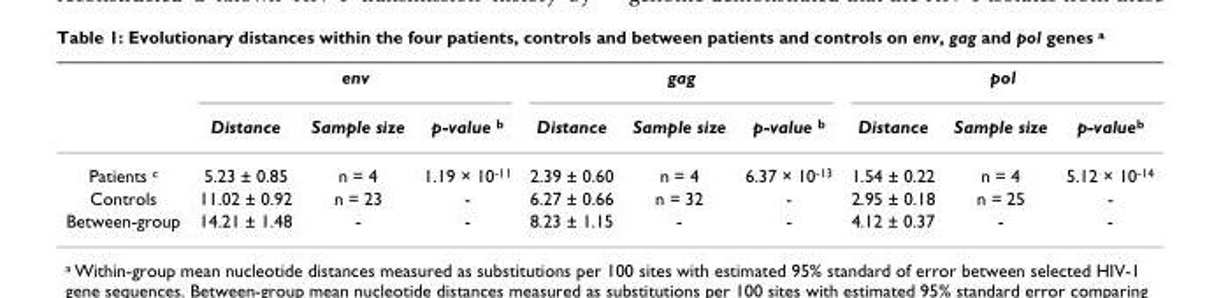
<table><thead><tr><td rowspan="2"></td><td colspan="3">env</td><td colspan="3">gag</td><td colspan="3">pol</td></tr><tr><td>Distance</td><td>Sample size</td><td>p-value <sup>b</sup></td><td>Distance</td><td>Sample size</td><td>p-value <sup>b</sup></td><td>Distance</td><td>Sample size</td><td>p-value<sup>b</sup></td></tr></thead><tbody><tr><td>Patients <sup>c</sup></td><td>5.23 ± 0.85</td><td>n = 4</td><td>1.19 × 10<sup>-11</sup></td><td>2.39 ± 0.60</td><td>n = 4</td><td>6.37 × 10<sup>-13</sup></td><td>1.54 ± 0.22</td><td>n = 4</td><td>5.12 × 10<sup>-14</sup></td></tr><tr><td>Controls</td><td>11.02 ± 0.92</td><td>n = 23</td><td>-</td><td>6.27 ± 0.66</td><td>n = 32</td><td>-</td><td>2.95 ± 0.18</td><td>n = 25</td><td>-</td></tr><tr><td>Between-group</td><td>14.21 ± 1.48</td><td>-</td><td>-</td><td>8.23 ± 1.15</td><td>-</td><td>-</td><td>4.12 ± 0.37</td><td>-</td><td>-</td></tr></tbody></table>